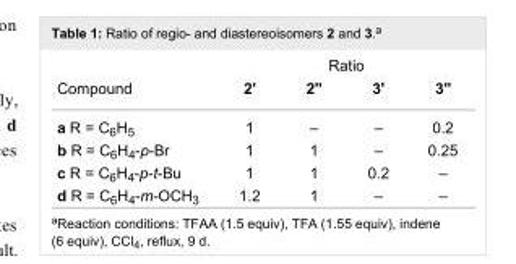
<table><thead><tr><td rowspan="2">Compound</td><td colspan="4">Ratio</td></tr><tr><td>2&#x27;</td><td>2&#x27;&#x27;</td><td>3&#x27;</td><td>3&#x27;&#x27;</td></tr></thead><tbody><tr><td>a R = C<sub>6</sub>H<sub>5</sub></td><td>1</td><td>–</td><td>–</td><td>0.2</td></tr><tr><td>b R = C<sub>6</sub>H<sub>4</sub>-p-Br</td><td>1</td><td>1</td><td>–</td><td>0.25</td></tr><tr><td>c R = C<sub>6</sub>H<sub>4</sub>-p-t-Bu</td><td>1</td><td>1</td><td>0.2</td><td>–</td></tr><tr><td>d R = C<sub>6</sub>H<sub>4</sub>-m-OCH<sub>3</sub></td><td>1.2</td><td>1</td><td>–</td><td>–</td></tr></tbody></table>